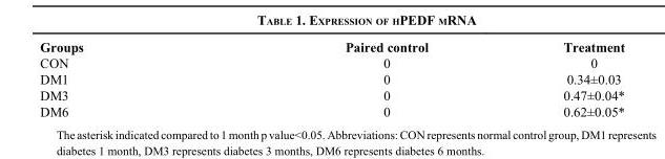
<table><thead><tr><td>Groups</td><td>Paired control</td><td>Treatment</td></tr></thead><tbody><tr><td>CON</td><td>0</td><td>0</td></tr><tr><td>DM1</td><td>0</td><td>0.34±0.03</td></tr><tr><td>DM3</td><td>0</td><td>0.47±0.04*</td></tr><tr><td>DM6</td><td>0</td><td>0.62±0.05*</td></tr></tbody></table>